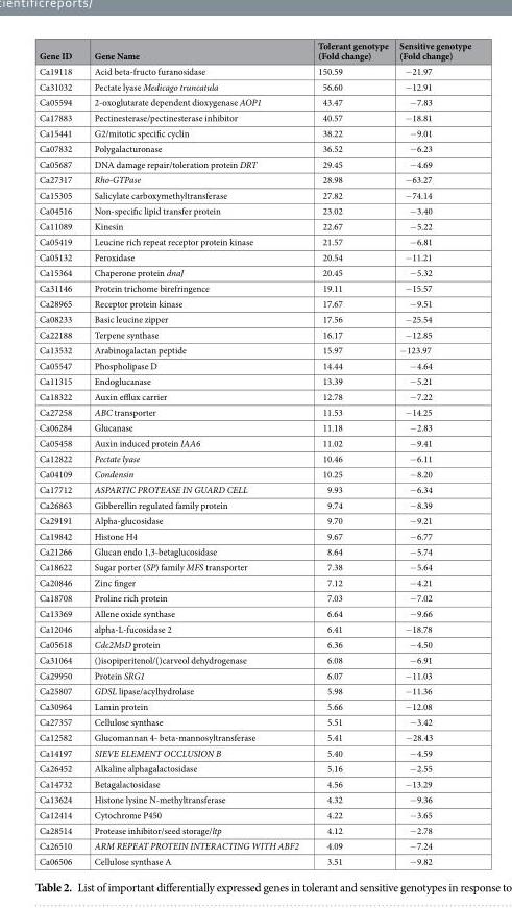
<table><thead><tr><td>Gene ID</td><td>Gene Name</td><td>Tolerant genotype (Fold change)</td><td>Sensitive genotype (Fold change)</td></tr></thead><tbody><tr><td>Ca19118</td><td>Acid beta-fructo furanosidase</td><td>150.59</td><td>−21.97</td></tr><tr><td>Ca31032</td><td>Pectate lyase Medicago truncatula</td><td>56.60</td><td>−12.91</td></tr><tr><td>Ca05594</td><td>2-oxoglutarate dependent dioxygenase AOP1</td><td>43.47</td><td>−7.83</td></tr><tr><td>Ca17883</td><td>Pectinesterase/pectinesterase inhibitor</td><td>40.57</td><td>−18.81</td></tr><tr><td>Ca15441</td><td>G2/mitotic specific cyclin</td><td>38.22</td><td>−9.01</td></tr><tr><td>Ca07832</td><td>Polygalacturonase</td><td>36.52</td><td>−6.23</td></tr><tr><td>Ca05687</td><td>DNA damage repair/toleration protein DRT</td><td>29.45</td><td>−4.69</td></tr><tr><td>Ca27317</td><td>Rho-GTPase</td><td>28.98</td><td>−63.27</td></tr><tr><td>Ca15305</td><td>Salicylate carboxymethyltransferase</td><td>27.82</td><td>−74.14</td></tr><tr><td>Ca04516</td><td>Non-specific lipid transfer protein</td><td>23.02</td><td>−3.40</td></tr><tr><td>Ca11089</td><td>Kinesin</td><td>22.67</td><td>−5.22</td></tr><tr><td>Ca05419</td><td>Leucine rich repeat receptor protein kinase</td><td>21.57</td><td>−6.81</td></tr><tr><td>Ca05132</td><td>Peroxidase</td><td>20.54</td><td>−11.21</td></tr><tr><td>Ca15364</td><td>Chaperone protein dnaJ</td><td>20.45</td><td>−5.32</td></tr><tr><td>Ca31146</td><td>Protein trichome birefringence</td><td>19.11</td><td>−15.57</td></tr><tr><td>Ca28965</td><td>Receptor protein kinase</td><td>17.67</td><td>−9.51</td></tr><tr><td>Ca08233</td><td>Basic leucine zipper</td><td>17.56</td><td>−25.54</td></tr><tr><td>Ca22188</td><td>Terpene synthase</td><td>16.17</td><td>−12.85</td></tr><tr><td>Ca13532</td><td>Arabinogalactan peptide</td><td>15.97</td><td>−123.97</td></tr><tr><td>Ca05547</td><td>Phospholipase D</td><td>14.44</td><td>−4.64</td></tr><tr><td>Ca11315</td><td>Endoglucanase</td><td>13.39</td><td>−5.21</td></tr><tr><td>Ca18322</td><td>Auxin efflux carrier</td><td>12.78</td><td>−7.22</td></tr><tr><td>Ca27258</td><td>ABC transporter</td><td>11.53</td><td>−14.25</td></tr><tr><td>Ca06284</td><td>Glucanase</td><td>11.18</td><td>−2.83</td></tr><tr><td>Ca05458</td><td>Auxin induced protein IAA6</td><td>11.02</td><td>−9.41</td></tr><tr><td>Ca12822</td><td>Pectate lyase</td><td>10.46</td><td>−6.11</td></tr><tr><td>Ca04109</td><td>Condensin</td><td>10.25</td><td>−8.20</td></tr><tr><td>Ca17712</td><td>ASPARTIC PROTEASE IN GUARD CELL</td><td>9.93</td><td>−6.34</td></tr><tr><td>Ca26863</td><td>Gibberellin regulated family protein</td><td>9.74</td><td>−8.39</td></tr><tr><td>Ca29191</td><td>Alpha-glucosidase</td><td>9.70</td><td>−9.21</td></tr><tr><td>Ca19842</td><td>Histone H4</td><td>9.67</td><td>−6.77</td></tr><tr><td>Ca21266</td><td>Glucan endo 1,3-betaglucosidase</td><td>8.64</td><td>−5.74</td></tr><tr><td>Ca18622</td><td>Sugar porter (SP) family MFS transporter</td><td>7.38</td><td>−5.64</td></tr><tr><td>Ca20846</td><td>Zinc finger</td><td>7.12</td><td>−4.21</td></tr><tr><td>Ca18708</td><td>Proline rich protein</td><td>7.03</td><td>−7.02</td></tr><tr><td>Ca13369</td><td>Allene oxide synthase</td><td>6.64</td><td>−9.66</td></tr><tr><td>Ca12046</td><td>alpha-L-fucosidase 2</td><td>6.41</td><td>−18.78</td></tr><tr><td>Ca05618</td><td>Cdc2MsD protein</td><td>6.36</td><td>−4.50</td></tr><tr><td>Ca31064</td><td>()isopiperitenol/()carveol dehydrogenase</td><td>6.08</td><td>−6.91</td></tr><tr><td>Ca29950</td><td>Protein SRG1</td><td>6.07</td><td>−11.03</td></tr><tr><td>Ca25807</td><td>GDSL lipase/acylhydrolase</td><td>5.98</td><td>−11.36</td></tr><tr><td>Ca30964</td><td>Lamin protein</td><td>5.66</td><td>−12.08</td></tr><tr><td>Ca27357</td><td>Cellulose synthase</td><td>5.51</td><td>−3.42</td></tr><tr><td>Ca12582</td><td>Glucomannan 4- beta-mannosyltransferase</td><td>5.41</td><td>−28.43</td></tr><tr><td>Ca14197</td><td>SIEVE ELEMENT OCCLUSION B</td><td>5.40</td><td>−4.59</td></tr><tr><td>Ca26452</td><td>Alkaline alphagalactosidase</td><td>5.16</td><td>−2.55</td></tr><tr><td>Ca14732</td><td>Betagalactosidase</td><td>4.56</td><td>−13.29</td></tr><tr><td>Ca13624</td><td>Histone lysine N-methyltransferase</td><td>4.32</td><td>−9.36</td></tr><tr><td>Ca12414</td><td>Cytochrome P450</td><td>4.22</td><td>−3.65</td></tr><tr><td>Ca28514</td><td>Protease inhibitor/seed storage/ltp</td><td>4.12</td><td>−2.78</td></tr><tr><td>Ca26510</td><td>ARM REPEAT PROTEIN INTERACTING WITH ABF2</td><td>4.09</td><td>−7.24</td></tr><tr><td>Ca06506</td><td>Cellulose synthase A</td><td>3.51</td><td>−9.82</td></tr></tbody></table>